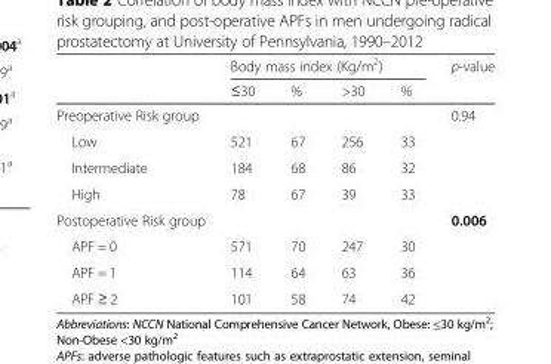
<table><thead><tr><td rowspan="2"></td><td colspan="4">Body mass index (Kg/m<sup>2</sup>)</td><td rowspan="2">p-value</td></tr><tr><td>≤30</td><td>%</td><td>&gt;30</td><td>%</td></tr></thead><tbody><tr><td>Preoperative Risk group</td><td></td><td></td><td></td><td></td><td>0.94</td></tr><tr><td>Low</td><td>521</td><td>67</td><td>256</td><td>33</td><td></td></tr><tr><td>Intermediate</td><td>184</td><td>68</td><td>86</td><td>32</td><td></td></tr><tr><td>High</td><td>78</td><td>67</td><td>39</td><td>33</td><td></td></tr><tr><td>Postoperative Risk group</td><td></td><td></td><td></td><td></td><td>0.006</td></tr><tr><td>APF = 0</td><td>571</td><td>70</td><td>247</td><td>30</td><td></td></tr><tr><td>APF = 1</td><td>114</td><td>64</td><td>63</td><td>36</td><td></td></tr><tr><td>APF ≥ 2</td><td>101</td><td>58</td><td>74</td><td>42</td><td></td></tr></tbody></table>